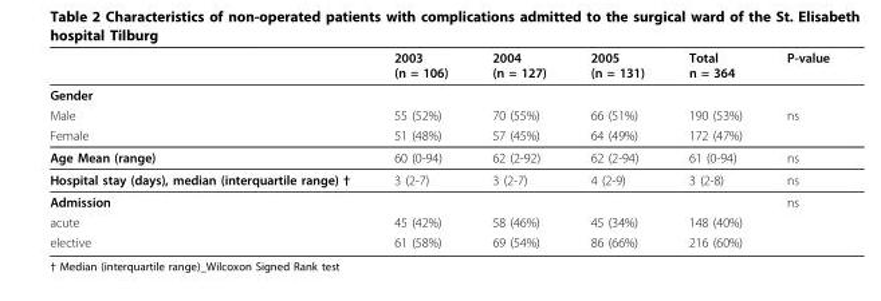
<table><thead><tr><td></td><td>2003 (n = 106)</td><td>2004 (n = 127)</td><td>2005 (n = 131)</td><td>Total n = 364</td><td>P-value</td></tr></thead><tbody><tr><td colspan="6">Gender</td></tr><tr><td>Male</td><td>55 (52%)</td><td>70 (55%)</td><td>66 (51%)</td><td>190 (53%)</td><td>ns</td></tr><tr><td>Female</td><td>51 (48%)</td><td>57 (45%)</td><td>64 (49%)</td><td>172 (47%)</td><td></td></tr><tr><td>Age Mean (range)</td><td>60 (0-94)</td><td>62 (2-92)</td><td>62 (2-94)</td><td>61 (0-94)</td><td>ns</td></tr><tr><td>Hospital stay (days), median (interquartile range) †</td><td>3 (2-7)</td><td>3 (2-7)</td><td>4 (2-9)</td><td>3 (2-8)</td><td>ns</td></tr><tr><td>Admission</td><td></td><td></td><td></td><td></td><td>ns</td></tr><tr><td>acute</td><td>45 (42%)</td><td>58 (46%)</td><td>45 (34%)</td><td>148 (40%)</td><td></td></tr><tr><td>elective</td><td>61 (58%)</td><td>69 (54%)</td><td>86 (66%)</td><td>216 (60%)</td><td></td></tr></tbody></table>